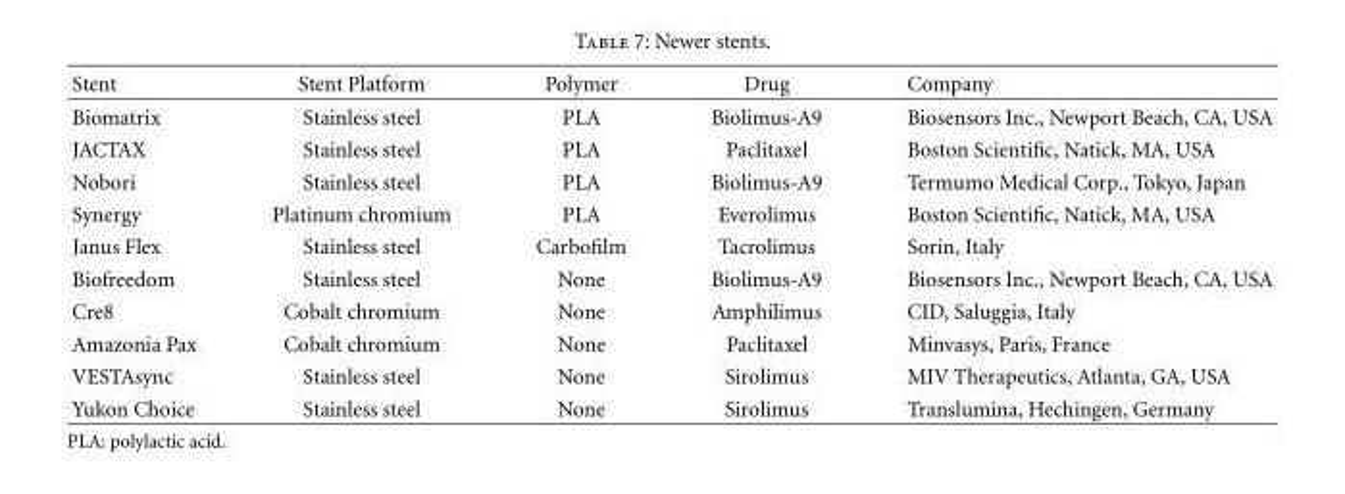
<table><thead><tr><td>Stent</td><td>Stent Platform</td><td>Polymer</td><td>Drug</td><td>Company</td></tr></thead><tbody><tr><td>Biomatrix</td><td>Stainless steel</td><td>PLA</td><td>Biolimus-A9</td><td>Biosensors Inc., Newport Beach, CA, USA</td></tr><tr><td>JACTAX</td><td>Stainless steel</td><td>PLA</td><td>Paclitaxel</td><td>Boston Scientific, Natick, MA, USA</td></tr><tr><td>Nobori</td><td>Stainless steel</td><td>PLA</td><td>Biolimus-A9</td><td>Termumo Medical Corp., Tokyo, Japan</td></tr><tr><td>Synergy</td><td>Platinum chromium</td><td>PLA</td><td>Everolimus</td><td>Boston Scientific, Natick, MA, USA</td></tr><tr><td>Janus Flex</td><td>Stainless steel</td><td>Carbofilm</td><td>Tacrolimus</td><td>Sorin, Italy</td></tr><tr><td>Biofreedom</td><td>Stainless steel</td><td>None</td><td>Biolimus-A9</td><td>Biosensors Inc., Newport Beach, CA, USA</td></tr><tr><td>Cre8</td><td>Cobalt chromium</td><td>None</td><td>Amphilimus</td><td>CID, Saluggia, Italy</td></tr><tr><td>Amazonia Pax</td><td>Cobalt chromium</td><td>None</td><td>Paclitaxel</td><td>Minvasys, Paris, France</td></tr><tr><td>VESTAsync</td><td>Stainless steel</td><td>None</td><td>Sirolimus</td><td>MIV Therapeutics, Atlanta, GA, USA</td></tr><tr><td>Yukon Choice</td><td>Stainless steel</td><td>None</td><td>Sirolimus</td><td>Translumina, Hechingen, Germany</td></tr></tbody></table>